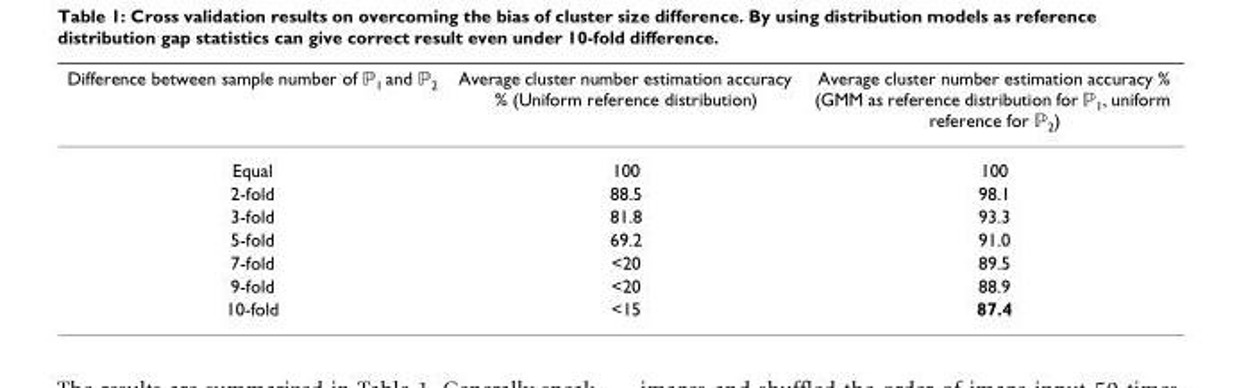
<table><thead><tr><td>Difference between sample number of ℙ<sub>1</sub> and ℙ<sub>2</sub></td><td>Average cluster number estimation accuracy % (Uniform reference distribution)</td><td>Average cluster number estimation accuracy % (GMM as reference distribution for ℙ<sub>1</sub>, uniform reference for ℙ<sub>2</sub>)</td></tr></thead><tbody><tr><td>Equal</td><td>100</td><td>100</td></tr><tr><td>2-fold</td><td>88.5</td><td>98.1</td></tr><tr><td>3-fold</td><td>81.8</td><td>93.3</td></tr><tr><td>5-fold</td><td>69.2</td><td>91.0</td></tr><tr><td>7-fold</td><td>&lt;20</td><td>89.5</td></tr><tr><td>9-fold</td><td>&lt;20</td><td>88.9</td></tr><tr><td>10-fold</td><td>&lt;15</td><td>87.4</td></tr></tbody></table>